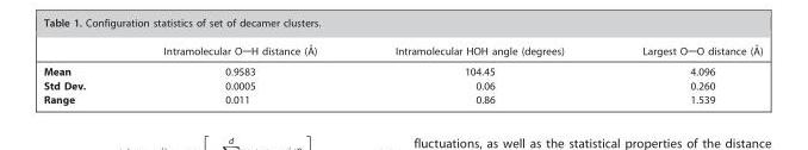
<table><thead><tr><td></td><td>Intramolecular OAH distance (A˚)</td><td>Intramolecular HOH angle (degrees)</td><td>Largest OAO distance (A˚)</td></tr></thead><tbody><tr><td>Mean</td><td>0.9583</td><td>104.45</td><td>4.096</td></tr><tr><td>Std Dev.</td><td>0.0005</td><td>0.06</td><td>0.260</td></tr><tr><td>Range</td><td>0.011</td><td>0.86</td><td>1.539</td></tr></tbody></table>